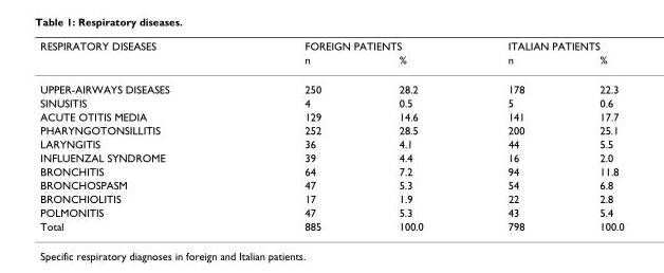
<table><thead><tr><td rowspan="2">RESPIRATORY DISEASES</td><td colspan="2">FOREIGN PATIENTS</td><td colspan="2">ITALIAN PATIENTS</td></tr><tr><td>n</td><td>%</td><td>n</td><td>%</td></tr></thead><tbody><tr><td>UPPER-AIRWAYS DISEASES</td><td>250</td><td>28.2</td><td>178</td><td>22.3</td></tr><tr><td>SINUSITIS</td><td>4</td><td>0.5</td><td>5</td><td>0.6</td></tr><tr><td>ACUTE OTITIS MEDIA</td><td>129</td><td>14.6</td><td>141</td><td>17.7</td></tr><tr><td>PHARYNGOTONSILLITIS</td><td>252</td><td>28.5</td><td>200</td><td>25.1</td></tr><tr><td>LARYNGITIS</td><td>36</td><td>4.1</td><td>44</td><td>5.5</td></tr><tr><td>INFLUENZAL SYNDROME</td><td>39</td><td>4.4</td><td>16</td><td>2.0</td></tr><tr><td>BRONCHITIS</td><td>64</td><td>7.2</td><td>94</td><td>11.8</td></tr><tr><td>BRONCHOSPASM</td><td>47</td><td>5.3</td><td>54</td><td>6.8</td></tr><tr><td>BRONCHIOLITIS</td><td>17</td><td>1.9</td><td>22</td><td>2.8</td></tr><tr><td>POLMONITIS</td><td>47</td><td>5.3</td><td>43</td><td>5.4</td></tr><tr><td>Total</td><td>885</td><td>100.0</td><td>798</td><td>100.0</td></tr></tbody></table>